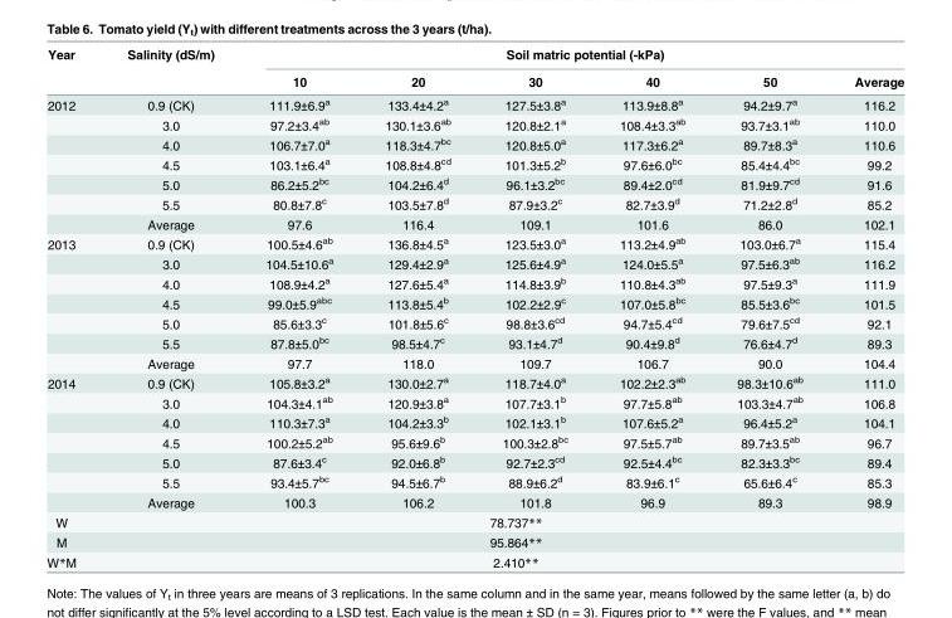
<table><thead><tr><td rowspan="2">Year</td><td rowspan="2">Salinity (dS/m)</td><td colspan="6">Soil matric potential (-kPa)</td></tr><tr><td>10</td><td>20</td><td>30</td><td>40</td><td>50</td><td>Average</td></tr></thead><tbody><tr><td rowspan="7">2012</td><td>0.9 (CK)</td><td>111.9±6.9<sup>a</sup></td><td>133.4±4.2<sup>a</sup></td><td>127.5±3.8<sup>a</sup></td><td>113.9±8.8<sup>a</sup></td><td>94.2±9.7<sup>a</sup></td><td>116.2</td></tr><tr><td>3.0</td><td>97.2±3.4<sup>ab</sup></td><td>130.1±3.6<sup>ab</sup></td><td>120.8±2.1<sup>a</sup></td><td>108.4±3.3<sup>ab</sup></td><td>93.7±3.1<sup>ab</sup></td><td>110.0</td></tr><tr><td>4.0</td><td>106.7±7.0<sup>a</sup></td><td>118.3±4.7<sup>bc</sup></td><td>120.8±5.0<sup>a</sup></td><td>117.3±6.2<sup>a</sup></td><td>89.7±8.3<sup>a</sup></td><td>110.6</td></tr><tr><td>4.5</td><td>103.1±6.4<sup>a</sup></td><td>108.8±4.8<sup>cd</sup></td><td>101.3±5.2<sup>b</sup></td><td>97.6±6.0<sup>bc</sup></td><td>85.4±4.4<sup>bc</sup></td><td>99.2</td></tr><tr><td>5.0</td><td>86.2±5.2<sup>bc</sup></td><td>104.2±6.4<sup>d</sup></td><td>96.1±3.2<sup>bc</sup></td><td>89.4±2.0<sup>cd</sup></td><td>81.9±9.7<sup>cd</sup></td><td>91.6</td></tr><tr><td>5.5</td><td>80.8±7.8<sup>c</sup></td><td>103.5±7.8<sup>d</sup></td><td>87.9±3.2<sup>c</sup></td><td>82.7±3.9<sup>d</sup></td><td>71.2±2.8<sup>d</sup></td><td>85.2</td></tr><tr><td>Average</td><td>97.6</td><td>116.4</td><td>109.1</td><td>101.6</td><td>86.0</td><td>102.1</td></tr><tr><td rowspan="7">2013</td><td>0.9 (CK)</td><td>100.5±4.6<sup>ab</sup></td><td>136.8±4.5<sup>a</sup></td><td>123.5±3.0<sup>a</sup></td><td>113.2±4.9<sup>ab</sup></td><td>103.0±6.7<sup>a</sup></td><td>115.4</td></tr><tr><td>3.0</td><td>104.5±10.6<sup>a</sup></td><td>129.4±2.9<sup>a</sup></td><td>125.6±4.9<sup>a</sup></td><td>124.0±5.5<sup>a</sup></td><td>97.5±6.3<sup>ab</sup></td><td>116.2</td></tr><tr><td>4.0</td><td>108.9±4.2<sup>a</sup></td><td>127.6±5.4<sup>a</sup></td><td>114.8±3.9<sup>b</sup></td><td>110.8±4.3<sup>ab</sup></td><td>97.5±9.3<sup>a</sup></td><td>111.9</td></tr><tr><td>4.5</td><td>99.0±5.9<sup>abc</sup></td><td>113.8±5.4<sup>b</sup></td><td>102.2±2.9<sup>c</sup></td><td>107.0±5.8<sup>bc</sup></td><td>85.5±3.6<sup>bc</sup></td><td>101.5</td></tr><tr><td>5.0</td><td>85.6±3.3<sup>c</sup></td><td>101.8±5.6<sup>c</sup></td><td>98.8±3.6<sup>cd</sup></td><td>94.7±5.4<sup>cd</sup></td><td>79.6±7.5<sup>cd</sup></td><td>92.1</td></tr><tr><td>5.5</td><td>87.8±5.0<sup>bc</sup></td><td>98.5±4.7<sup>c</sup></td><td>93.1±4.7<sup>d</sup></td><td>90.4±9.8<sup>d</sup></td><td>76.6±4.7<sup>d</sup></td><td>89.3</td></tr><tr><td>Average</td><td>97.7</td><td>118.0</td><td>109.7</td><td>106.7</td><td>90.0</td><td>104.4</td></tr><tr><td rowspan="7">2014</td><td>0.9 (CK)</td><td>105.8±3.2<sup>a</sup></td><td>130.0±2.7<sup>a</sup></td><td>118.7±4.0<sup>a</sup></td><td>102.2±2.3<sup>ab</sup></td><td>98.3±10.6<sup>ab</sup></td><td>111.0</td></tr><tr><td>3.0</td><td>104.3±4.1<sup>ab</sup></td><td>120.9±3.8<sup>a</sup></td><td>107.7±3.1<sup>b</sup></td><td>97.7±5.8<sup>ab</sup></td><td>103.3±4.7<sup>ab</sup></td><td>106.8</td></tr><tr><td>4.0</td><td>110.3±7.3<sup>a</sup></td><td>104.2±3.3<sup>b</sup></td><td>102.1±3.1<sup>b</sup></td><td>107.6±5.2<sup>a</sup></td><td>96.4±5.2<sup>a</sup></td><td>104.1</td></tr><tr><td>4.5</td><td>100.2±5.2<sup>ab</sup></td><td>95.6±9.6<sup>b</sup></td><td>100.3±2.8<sup>bc</sup></td><td>97.5±5.7<sup>ab</sup></td><td>89.7±3.5<sup>ab</sup></td><td>96.7</td></tr><tr><td>5.0</td><td>87.6±3.4<sup>c</sup></td><td>92.0±6.8<sup>b</sup></td><td>92.7±2.3<sup>cd</sup></td><td>92.5±4.4<sup>bc</sup></td><td>82.3±3.3<sup>bc</sup></td><td>89.4</td></tr><tr><td>5.5</td><td>93.4±5.7<sup>bc</sup></td><td>94.5±6.7<sup>b</sup></td><td>88.9±6.2<sup>d</sup></td><td>83.9±6.1<sup>c</sup></td><td>65.6±6.4<sup>c</sup></td><td>85.3</td></tr><tr><td>Average</td><td>100.3</td><td>106.2</td><td>101.8</td><td>96.9</td><td>89.3</td><td>98.9</td></tr><tr><td>W</td><td colspan="7">78.737**</td></tr><tr><td>M</td><td colspan="7">95.864**</td></tr><tr><td>W*M</td><td colspan="7">2.410**</td></tr></tbody></table>